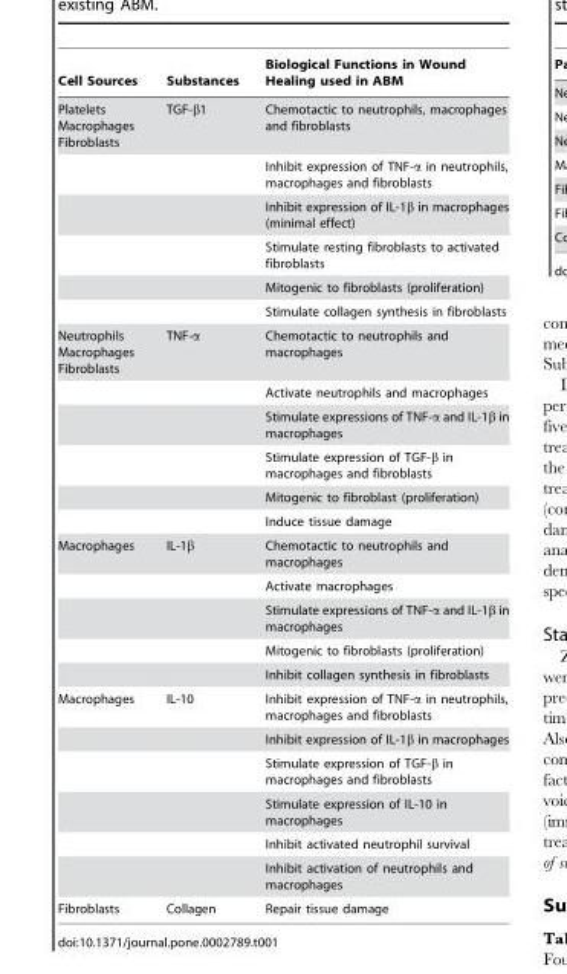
<table><thead><tr><td>Cell Sources</td><td>Substances</td><td>Biological Functions in Wound Healing used in ABM</td></tr></thead><tbody><tr><td rowspan="6">Platelets Macrophages Fibroblasts</td><td>TGF-β1</td><td>Chemotactic to neutrophils, macrophages and fibroblasts</td></tr><tr><td></td><td>Inhibit expression of TNF-α in neutrophils, macrophages and fibroblasts</td></tr><tr><td></td><td>Inhibit expression of IL-1β in macrophages (minimal effect)</td></tr><tr><td></td><td>Stimulate resting fibroblasts to activated fibroblasts</td></tr><tr><td></td><td>Mitogenic to fibroblasts (proliferation)</td></tr><tr><td></td><td>Stimulate collagen synthesis in fibroblasts</td></tr><tr><td rowspan="6">Neutrophils Macrophages Fibroblasts</td><td>TNF-α</td><td>Chemotactic to neutrophils and macrophages</td></tr><tr><td></td><td>Activate neutrophils and macrophages</td></tr><tr><td></td><td>Stimulate expressions of TNF-α and IL-1β in macrophages</td></tr><tr><td></td><td>Stimulate expression of TGF-β in macrophages and fibroblasts</td></tr><tr><td></td><td>Mitogenic to fibroblast (proliferation)</td></tr><tr><td></td><td>Induce tissue damage</td></tr><tr><td rowspan="5">Macrophages</td><td>IL-1β</td><td>Chemotactic to neutrophils and macrophages</td></tr><tr><td></td><td>Activate macrophages</td></tr><tr><td></td><td>Stimulate expressions of TNF-α and IL-1β in macrophages</td></tr><tr><td></td><td>Mitogenic to fibroblasts (proliferation)</td></tr><tr><td></td><td>Inhibit collagen synthesis in fibroblasts</td></tr><tr><td rowspan="6">Macrophages</td><td>IL-10</td><td>Inhibit expression of TNF-α in neutrophils, macrophages and fibroblasts</td></tr><tr><td></td><td>Inhibit expression of IL-1β in macrophages</td></tr><tr><td></td><td>Stimulate expression of TGF-β in macrophages and fibroblasts</td></tr><tr><td></td><td>Stimulate expression of IL-10 in macrophages</td></tr><tr><td></td><td>Inhibit activated neutrophil survival</td></tr><tr><td></td><td>Inhibit activation of neutrophils and macrophages</td></tr><tr><td>Fibroblasts</td><td>Collagen</td><td>Repair tissue damage</td></tr></tbody></table>